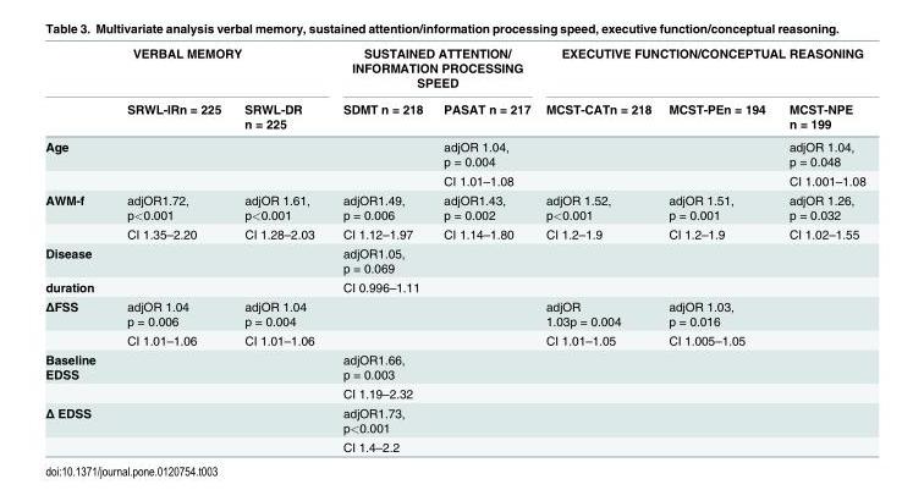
<table><thead><tr><td colspan="3">VERBAL MEMORY</td><td colspan="2">SUSTAINED ATTENTION/ INFORMATION PROCESSING SPEED</td><td colspan="3">EXECUTIVE FUNCTION/CONCEPTUAL REASONING</td></tr><tr><td></td><td>SRWL-IRn = 225</td><td>SRWL-DR n = 225</td><td>SDMT n = 218</td><td>PASAT n = 217</td><td>MCST-CATn = 218</td><td>MCST-PEn = 194</td><td>MCST-NPE n = 199</td></tr></thead><tbody><tr><td rowspan="2">Age</td><td></td><td></td><td></td><td>adjOR 1.04, p = 0.004</td><td></td><td></td><td>adjOR 1.04, p = 0.048</td></tr><tr><td></td><td></td><td></td><td>CI 1.01–1.08</td><td></td><td></td><td>CI 1.001–1.08</td></tr><tr><td rowspan="2">AWM-f</td><td>adjOR1.72, p&lt;0.001</td><td>adjOR 1.61, p&lt;0.001</td><td>adjOR1.49, p = 0.006</td><td>adjOR1.43, p = 0.002</td><td>adjOR 1.52, p&lt;0.001</td><td>adjOR 1.51, p = 0.001</td><td>adjOR 1.26, p = 0.032</td></tr><tr><td>CI 1.35–2.20</td><td>CI 1.28–2.03</td><td>CI 1.12–1.97</td><td>CI 1.14–1.80</td><td>CI 1.2–1.9</td><td>CI 1.2–1.9</td><td>CI 1.02–1.55</td></tr><tr><td>Disease</td><td></td><td></td><td>adjOR1.05, p = 0.069</td><td></td><td></td><td></td><td></td></tr><tr><td>duration</td><td></td><td></td><td>CI 0.996–1.11</td><td></td><td></td><td></td><td></td></tr><tr><td rowspan="2">ΔFSS</td><td>adjOR 1.04 p = 0.006</td><td>adjOR 1.04 p = 0.004</td><td></td><td></td><td>adjOR 1.03p = 0.004</td><td>adjOR 1.03, p = 0.016</td><td></td></tr><tr><td>CI 1.01–1.06</td><td>CI 1.01–1.06</td><td></td><td></td><td>CI 1.01–1.05</td><td>CI 1.005–1.05</td><td></td></tr><tr><td rowspan="2">Baseline EDSS</td><td></td><td></td><td>adjOR1.66, p = 0.003</td><td></td><td></td><td></td><td></td></tr><tr><td></td><td></td><td>CI 1.19–2.32</td><td></td><td></td><td></td><td></td></tr><tr><td rowspan="2">Δ EDSS</td><td></td><td></td><td>adjOR1.73, p&lt;0.001</td><td></td><td></td><td></td><td></td></tr><tr><td></td><td></td><td>CI 1.4–2.2</td><td></td><td></td><td></td><td></td></tr></tbody></table>